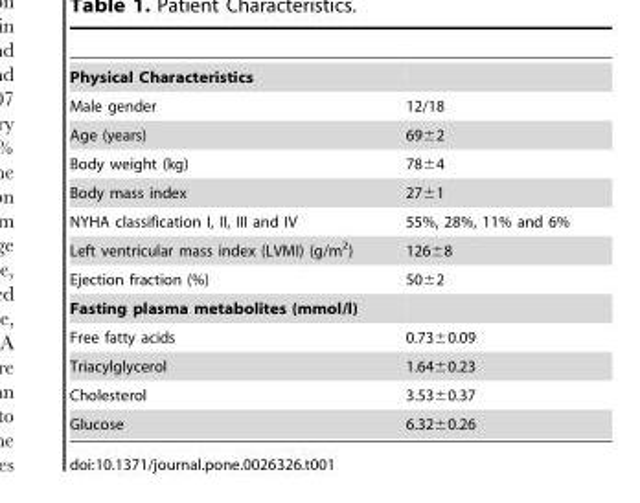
<table><tbody><tr><td colspan="2">Physical Characteristics</td></tr><tr><td>Male gender</td><td>12/18</td></tr><tr><td>Age (years)</td><td>69±2</td></tr><tr><td>Body weight (kg)</td><td>78±4</td></tr><tr><td>Body mass index</td><td>27±1</td></tr><tr><td>NYHA classification I, II, III and IV</td><td>55%, 28%, 11% and 6%</td></tr><tr><td>Left ventricular mass index (LVMI) (g/m<sup>2</sup>)</td><td>126±8</td></tr><tr><td>Ejection fraction (%)</td><td>50±2</td></tr><tr><td colspan="2">Fasting plasma metabolites (mmol/l)</td></tr><tr><td>Free fatty acids</td><td>0.73±0.09</td></tr><tr><td>Triacylglycerol</td><td>1.64±0.23</td></tr><tr><td>Cholesterol</td><td>3.53±0.37</td></tr><tr><td>Glucose</td><td>6.32±0.26</td></tr></tbody></table>